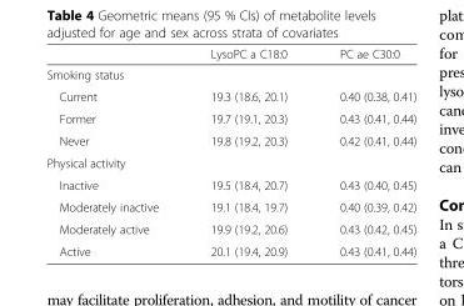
<table><thead><tr><td></td><td>LysoPC a C18:0</td><td>PC ae C30:0</td></tr></thead><tbody><tr><td colspan="3">Smoking status</td></tr><tr><td>Current</td><td>19.3 (18.6, 20.1)</td><td>0.40 (0.38, 0.41)</td></tr><tr><td>Former</td><td>19.7 (19.1, 20.3)</td><td>0.43 (0.41, 0.44)</td></tr><tr><td>Never</td><td>19.8 (19.2, 20.3)</td><td>0.42 (0.41, 0.44)</td></tr><tr><td colspan="3">Physical activity</td></tr><tr><td>Inactive</td><td>19.5 (18.4, 20.7)</td><td>0.43 (0.40, 0.45)</td></tr><tr><td>Moderately inactive</td><td>19.1 (18.4, 19.7)</td><td>0.40 (0.39, 0.42)</td></tr><tr><td>Moderately active</td><td>19.9 (19.2, 20.6)</td><td>0.43 (0.42, 0.45)</td></tr><tr><td>Active</td><td>20.1 (19.4, 20.9)</td><td>0.43 (0.41, 0.44)</td></tr></tbody></table>